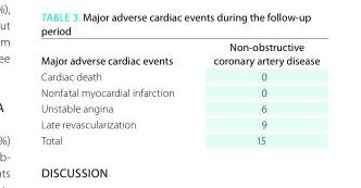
<table><thead><tr><td>Major adverse cardiac events</td><td>non-obstructive coronary artery disease</td></tr></thead><tbody><tr><td>Cardiac death</td><td>0</td></tr><tr><td>Nonfatal myocardial infarction</td><td>0</td></tr><tr><td>Unstable angina</td><td>6</td></tr><tr><td>Late revascularization</td><td>9</td></tr><tr><td>Total</td><td>15</td></tr></tbody></table>